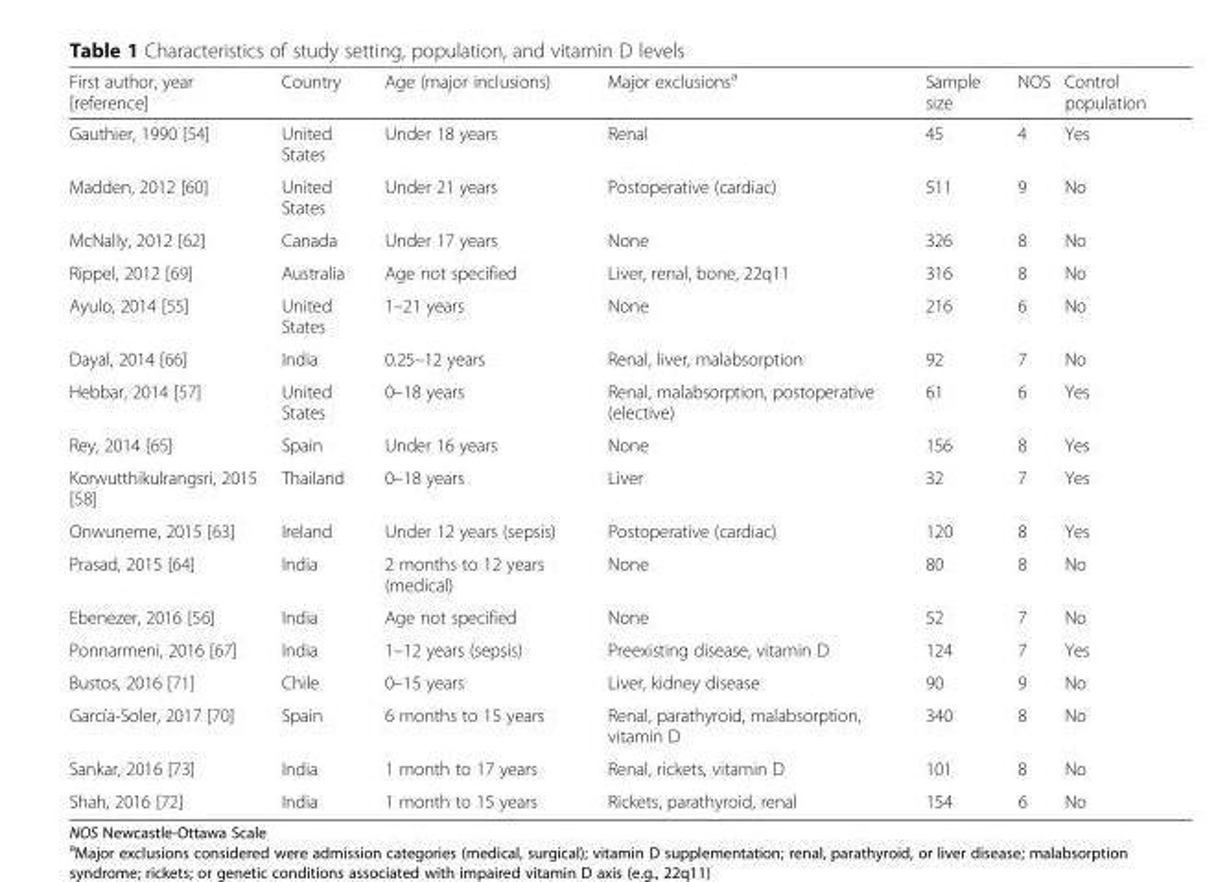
<table><thead><tr><td>First author, year [reference]</td><td>Country</td><td>Age (major inclusions)</td><td>Major exclusions<sup>a</sup></td><td>Sample size</td><td>NOS</td><td>Control population</td></tr></thead><tbody><tr><td>Gauthier, 1990 [54]</td><td>United States</td><td>Under 18 years</td><td>Renal</td><td>45</td><td>4</td><td>Yes</td></tr><tr><td>Madden, 2012 [60]</td><td>United States</td><td>Under 21 years</td><td>Postoperative (cardiac)</td><td>511</td><td>9</td><td>No</td></tr><tr><td>McNally, 2012 [62]</td><td>Canada</td><td>Under 17 years</td><td>None</td><td>326</td><td>8</td><td>No</td></tr><tr><td>Rippel, 2012 [69]</td><td>Australia</td><td>Age not specified</td><td>Liver, renal, bone, 22q11</td><td>316</td><td>8</td><td>No</td></tr><tr><td>Ayulo, 2014 [55]</td><td>United States</td><td>1–21 years</td><td>None</td><td>216</td><td>6</td><td>No</td></tr><tr><td>Dayal, 2014 [66]</td><td>India</td><td>0.25–12 years</td><td>Renal, liver, malabsorption</td><td>92</td><td>7</td><td>No</td></tr><tr><td>Hebbar, 2014 [57]</td><td>United States</td><td>0–18 years</td><td>Renal, malabsorption, postoperative (elective)</td><td>61</td><td>6</td><td>Yes</td></tr><tr><td>Rey, 2014 [65]</td><td>Spain</td><td>Under 16 years</td><td>None</td><td>156</td><td>8</td><td>Yes</td></tr><tr><td>Korwutthikulrangsri, 2015 [58]</td><td>Thailand</td><td>0–18 years</td><td>Liver</td><td>32</td><td>7</td><td>Yes</td></tr><tr><td>Onwuneme, 2015 [63]</td><td>Ireland</td><td>Under 12 years (sepsis)</td><td>Postoperative (cardiac)</td><td>120</td><td>8</td><td>Yes</td></tr><tr><td>Prasad, 2015 [64]</td><td>India</td><td>2 months to 12 years (medical)</td><td>None</td><td>80</td><td>8</td><td>No</td></tr><tr><td>Ebenezer, 2016 [56]</td><td>India</td><td>Age not specified</td><td>None</td><td>52</td><td>7</td><td>No</td></tr><tr><td>Ponnarmeni, 2016 [67]</td><td>India</td><td>1–12 years (sepsis)</td><td>Preexisting disease, vitamin D</td><td>124</td><td>7</td><td>Yes</td></tr><tr><td>Bustos, 2016 [71]</td><td>Chile</td><td>0–15 years</td><td>Liver, kidney disease</td><td>90</td><td>9</td><td>No</td></tr><tr><td>García-Soler, 2017 [70]</td><td>Spain</td><td>6 months to 15 years</td><td>Renal, parathyroid, malabsorption, vitamin D</td><td>340</td><td>8</td><td>No</td></tr><tr><td>Sankar, 2016 [73]</td><td>India</td><td>1 month to 17 years</td><td>Renal, rickets, vitamin D</td><td>101</td><td>8</td><td>No</td></tr><tr><td>Shah, 2016 [72]</td><td>India</td><td>1 month to 15 years</td><td>Rickets, parathyroid, renal</td><td>154</td><td>6</td><td>No</td></tr></tbody></table>